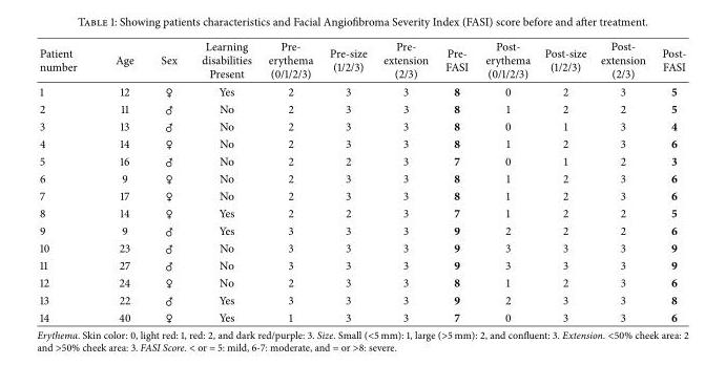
<table><thead><tr><td>Patient number</td><td>Age</td><td>Sex</td><td>Learning disabilities Present</td><td>Pre- erythema (0/1/2/3)</td><td>Pre-size (1/2/3)</td><td>Pre- extension (2/3)</td><td>Pre- FASI</td><td>Post- erythema (0/1/2/3)</td><td>Post-size (1/2/3)</td><td>Post- extension (2/3)</td><td>Post- FASI</td></tr></thead><tbody><tr><td>1</td><td>12</td><td>♀</td><td>Yes</td><td>2</td><td>3</td><td>3</td><td>8</td><td>0</td><td>2</td><td>3</td><td>5</td></tr><tr><td>2</td><td>11</td><td>♂</td><td>No</td><td>2</td><td>3</td><td>3</td><td>8</td><td>1</td><td>2</td><td>2</td><td>5</td></tr><tr><td>3</td><td>13</td><td>♂</td><td>No</td><td>2</td><td>3</td><td>3</td><td>8</td><td>0</td><td>1</td><td>3</td><td>4</td></tr><tr><td>4</td><td>14</td><td>♀</td><td>No</td><td>2</td><td>3</td><td>3</td><td>8</td><td>1</td><td>2</td><td>3</td><td>6</td></tr><tr><td>5</td><td>16</td><td>♂</td><td>No</td><td>2</td><td>2</td><td>3</td><td>7</td><td>0</td><td>1</td><td>2</td><td>3</td></tr><tr><td>6</td><td>9</td><td>♀</td><td>No</td><td>2</td><td>3</td><td>3</td><td>8</td><td>1</td><td>2</td><td>3</td><td>6</td></tr><tr><td>7</td><td>17</td><td>♀</td><td>No</td><td>2</td><td>3</td><td>3</td><td>8</td><td>1</td><td>2</td><td>3</td><td>6</td></tr><tr><td>8</td><td>14</td><td>♀</td><td>Yes</td><td>2</td><td>2</td><td>3</td><td>7</td><td>1</td><td>2</td><td>2</td><td>5</td></tr><tr><td>9</td><td>9</td><td>♂</td><td>Yes</td><td>3</td><td>3</td><td>3</td><td>9</td><td>2</td><td>2</td><td>2</td><td>6</td></tr><tr><td>10</td><td>23</td><td>♂</td><td>No</td><td>3</td><td>3</td><td>3</td><td>9</td><td>3</td><td>3</td><td>3</td><td>9</td></tr><tr><td>11</td><td>27</td><td>♂</td><td>No</td><td>3</td><td>3</td><td>3</td><td>9</td><td>3</td><td>3</td><td>3</td><td>9</td></tr><tr><td>12</td><td>24</td><td>♀</td><td>No</td><td>2</td><td>3</td><td>3</td><td>8</td><td>1</td><td>2</td><td>3</td><td>6</td></tr><tr><td>13</td><td>22</td><td>♂</td><td>Yes</td><td>3</td><td>3</td><td>3</td><td>9</td><td>2</td><td>3</td><td>3</td><td>8</td></tr><tr><td>14</td><td>40</td><td>♀</td><td>Yes</td><td>1</td><td>3</td><td>3</td><td>7</td><td>0</td><td>3</td><td>3</td><td>6</td></tr></tbody></table>